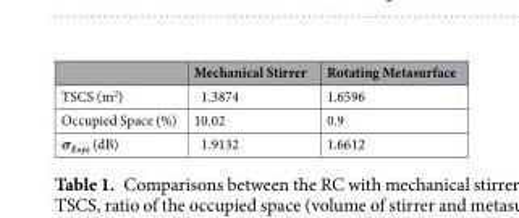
<table><thead><tr><td></td><td>Mechanical Stirrer</td><td>Rotating Metasurface</td></tr></thead><tbody><tr><td>TSCS (m<sup>2</sup>)</td><td>1.3874</td><td>1.6596</td></tr><tr><td>Occupied Space (%)</td><td>10.02</td><td>0.9</td></tr><tr><td>σ<sub>Exyz</sub> (dB)</td><td>1.9132</td><td>1.6612</td></tr></tbody></table>